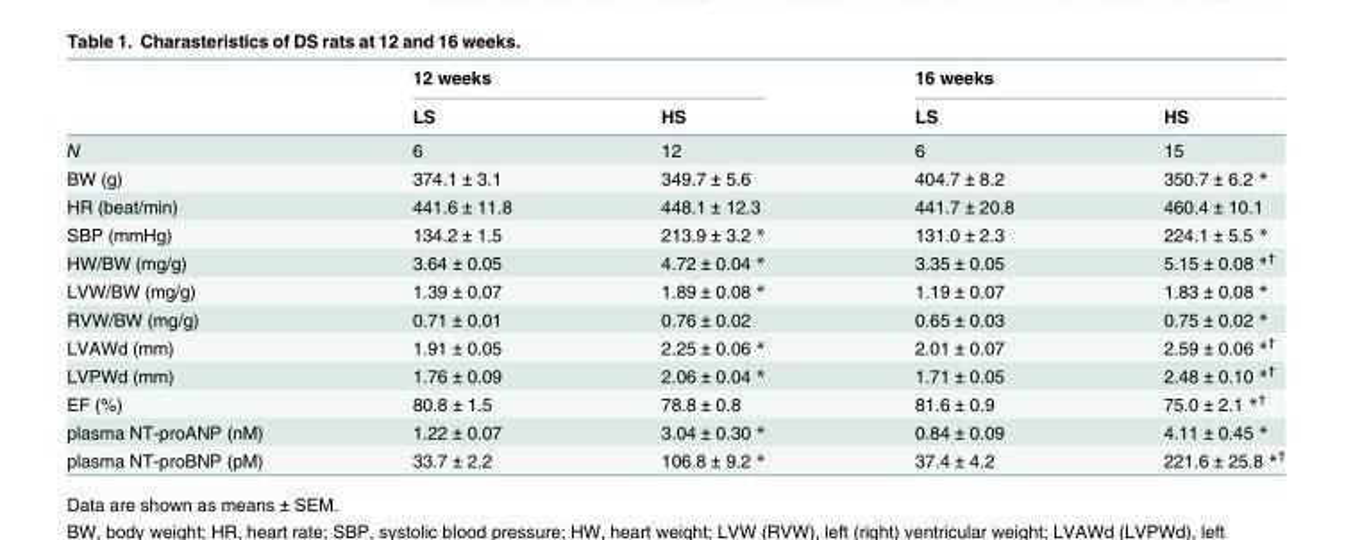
<table><thead><tr><td rowspan="2"></td><td colspan="2">12 weeks</td><td colspan="2">16 weeks</td></tr><tr><td>LS</td><td>HS</td><td>LS</td><td>HS</td></tr></thead><tbody><tr><td>N</td><td>6</td><td>12</td><td>6</td><td>15</td></tr><tr><td>BW (g)</td><td>374.1 ± 3.1</td><td>349.7 ± 5.6</td><td>404.7 ± 8.2</td><td>350.7 ± 6.2 *</td></tr><tr><td>HR (beat/min)</td><td>441.6 ± 11.8</td><td>448.1 ± 12.3</td><td>441.7 ± 20.8</td><td>460.4 ± 10.1</td></tr><tr><td>SBP (mmHg)</td><td>134.2 ± 1.5</td><td>213.9 ± 3.2 *</td><td>131.0 ± 2.3</td><td>224.1 ± 5.5 *</td></tr><tr><td>HW/BW (mg/g)</td><td>3.64 ± 0.05</td><td>4.72 ± 0.04 *</td><td>3.35 ± 0.05</td><td>5.15 ± 0.08 *<sup>†</sup></td></tr><tr><td>LVW/BW (mg/g)</td><td>1.39 ± 0.07</td><td>1.89 ± 0.08 *</td><td>1.19 ± 0.07</td><td>1.83 ± 0.08 *</td></tr><tr><td>RVW/BW (mg/g)</td><td>0.71 ± 0.01</td><td>0.76 ± 0.02</td><td>0.65 ± 0.03</td><td>0.75 ± 0.02 *</td></tr><tr><td>LVAWd (mm)</td><td>1.91 ± 0.05</td><td>2.25 ± 0.06 *</td><td>2.01 ± 0.07</td><td>2.59 ± 0.06 *<sup>†</sup></td></tr><tr><td>LVPWd (mm)</td><td>1.76 ± 0.09</td><td>2.06 ± 0.04 *</td><td>1.71 ± 0.05</td><td>2.48 ± 0.10 *<sup>†</sup></td></tr><tr><td>EF (%)</td><td>80.8 ± 1.5</td><td>78.8 ± 0.8</td><td>81.6 ± 0.9</td><td>75.0 ± 2.1 *<sup>†</sup></td></tr><tr><td>plasma NT-proANP (nM)</td><td>1.22 ± 0.07</td><td>3.04 ± 0.30 *</td><td>0.84 ± 0.09</td><td>4.11 ± 0.45 *</td></tr><tr><td>plasma NT-proBNP (pM)</td><td>33.7 ± 2.2</td><td>106.8 ± 9.2 *</td><td>37.4 ± 4.2</td><td>221.6 ± 25.8 *<sup>†</sup></td></tr></tbody></table>